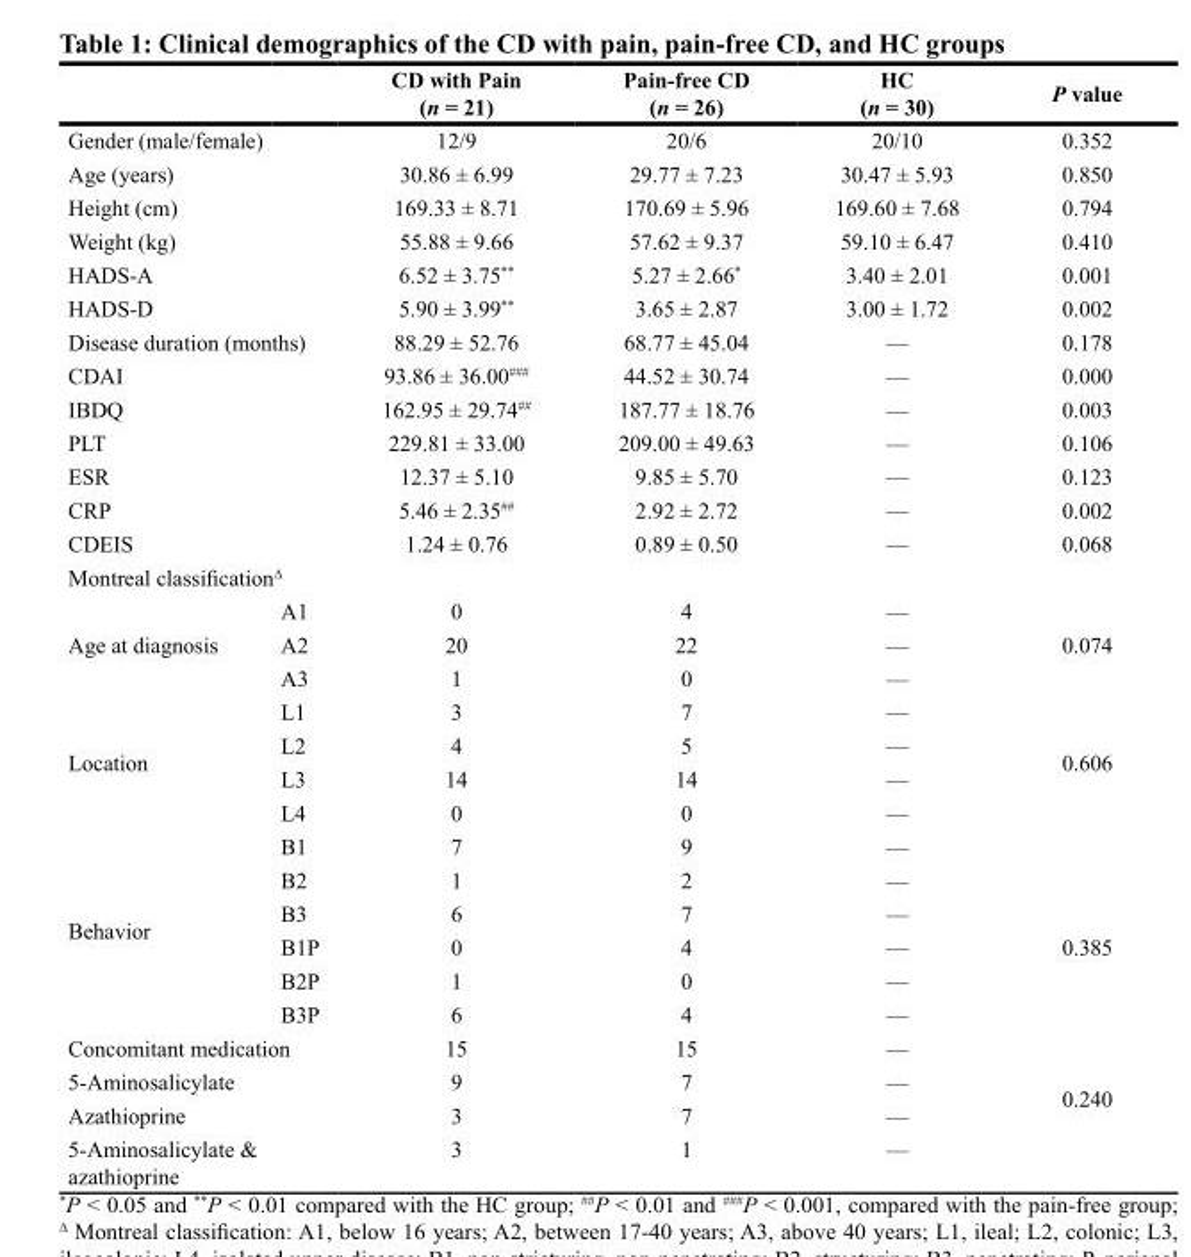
<table><thead><tr><td></td><td></td><td>CD with Pain (n = 21)</td><td>Pain-free CD (n = 26)</td><td>HC (n = 30)</td><td>P value</td></tr></thead><tbody><tr><td>Gender (male/female)</td><td></td><td>12/9</td><td>20/6</td><td>20/10</td><td>0.352</td></tr><tr><td>Age (years)</td><td></td><td>30.86 ± 6.99</td><td>29.77 ± 7.23</td><td>30.47 ± 5.93</td><td>0.850</td></tr><tr><td>Height (cm)</td><td></td><td>169.33 ± 8.71</td><td>170.69 ± 5.96</td><td>169.60 ± 7.68</td><td>0.794</td></tr><tr><td>Weight (kg)</td><td></td><td>55.88 ± 9.66</td><td>57.62 ± 9.37</td><td>59.10 ± 6.47</td><td>0.410</td></tr><tr><td>HADS-A</td><td></td><td>6.52 ± 3.75**</td><td>5.27 ± 2.66*</td><td>3.40 ± 2.01</td><td>0.001</td></tr><tr><td>HADS-D</td><td></td><td>5.90 ± 3.99**</td><td>3.65 ± 2.87</td><td>3.00 ± 1.72</td><td>0.002</td></tr><tr><td colspan="2">Disease duration (months)</td><td>88.29 ± 52.76</td><td>68.77 ± 45.04</td><td>—</td><td>0.178</td></tr><tr><td>CDAI</td><td></td><td>93.86 ± 36.00<sup>###</sup></td><td>44.52 ± 30.74</td><td>—</td><td>0.000</td></tr><tr><td>IBDQ</td><td></td><td>162.95 ± 29.74<sup>##</sup></td><td>187.77 ± 18.76</td><td>—</td><td>0.003</td></tr><tr><td>PLT</td><td></td><td>229.81 ± 33.00</td><td>209.00 ± 49.63</td><td>—</td><td>0.106</td></tr><tr><td>ESR</td><td></td><td>12.37 ± 5.10</td><td>9.85 ± 5.70</td><td>—</td><td>0.123</td></tr><tr><td>CRP</td><td></td><td>5.46 ± 2.35<sup>##</sup></td><td>2.92 ± 2.72</td><td>—</td><td>0.002</td></tr><tr><td>CDEIS</td><td></td><td>1.24 ± 0.76</td><td>0.89 ± 0.50</td><td>—</td><td>0.068</td></tr><tr><td colspan="6">Montreal classification<sup>Δ</sup></td></tr><tr><td rowspan="3">Age at diagnosis</td><td>A1</td><td>0</td><td>4</td><td>—</td><td rowspan="3">0.074</td></tr><tr><td>A2</td><td>20</td><td>22</td><td>—</td></tr><tr><td>A3</td><td>1</td><td>0</td><td>—</td></tr><tr><td rowspan="4">Location</td><td>L1</td><td>3</td><td>7</td><td>—</td><td rowspan="4">0.606</td></tr><tr><td>L2</td><td>4</td><td>5</td><td>—</td></tr><tr><td>L3</td><td>14</td><td>14</td><td>—</td></tr><tr><td>L4</td><td>0</td><td>0</td><td>—</td></tr><tr><td rowspan="6">Behavior</td><td>B1</td><td>7</td><td>9</td><td>—</td><td rowspan="7">0.385</td></tr><tr><td>B2</td><td>1</td><td>2</td><td>—</td></tr><tr><td>B3</td><td>6</td><td>7</td><td>—</td></tr><tr><td>B1P</td><td>0</td><td>4</td><td>—</td></tr><tr><td>B2P</td><td>1</td><td>0</td><td>—</td></tr><tr><td>B3P</td><td>6</td><td>4</td><td>—</td></tr><tr><td colspan="2">Concomitant medication</td><td>15</td><td>15</td><td>—</td></tr><tr><td>5-Aminosalicylate</td><td></td><td>9</td><td>7</td><td>—</td><td rowspan="2">0.240</td></tr><tr><td>Azathioprine</td><td></td><td>3</td><td>7</td><td>—</td></tr><tr><td colspan="2">5-Aminosalicylate &amp; azathioprine</td><td>3</td><td>1</td><td>—</td><td></td></tr></tbody></table>